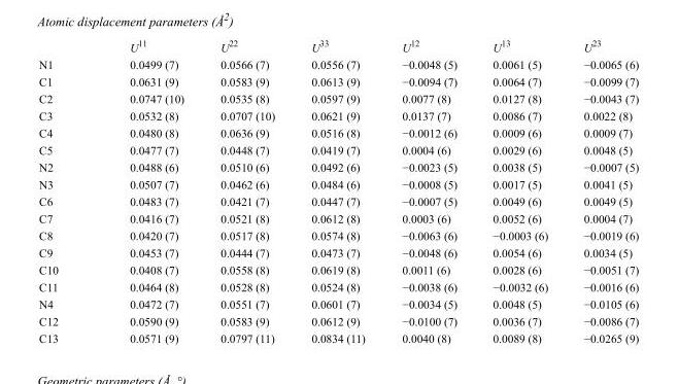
<table><thead><tr><td></td><td>U<sup>11</sup></td><td>U<sup>22</sup></td><td>U<sup>33</sup></td><td>U<sup>12</sup></td><td>U<sup>13</sup></td><td>U<sup>23</sup></td></tr></thead><tbody><tr><td>N1</td><td>0.0499 (7)</td><td>0.0566 (7)</td><td>0.0556 (7)</td><td>−0.0048 (5)</td><td>0.0061 (5)</td><td>−0.0065 (6)</td></tr><tr><td>C1</td><td>0.0631 (9)</td><td>0.0583 (9)</td><td>0.0613 (9)</td><td>−0.0094 (7)</td><td>0.0064 (7)</td><td>−0.0099 (7)</td></tr><tr><td>C2</td><td>0.0747 (10)</td><td>0.0535 (8)</td><td>0.0597 (9)</td><td>0.0077 (8)</td><td>0.0127 (8)</td><td>−0.0043 (7)</td></tr><tr><td>C3</td><td>0.0532 (8)</td><td>0.0707 (10)</td><td>0.0621 (9)</td><td>0.0137 (7)</td><td>0.0086 (7)</td><td>0.0022 (8)</td></tr><tr><td>C4</td><td>0.0480 (8)</td><td>0.0636 (9)</td><td>0.0516 (8)</td><td>−0.0012 (6)</td><td>0.0009 (6)</td><td>0.0009 (7)</td></tr><tr><td>C5</td><td>0.0477 (7)</td><td>0.0448 (7)</td><td>0.0419 (7)</td><td>0.0004 (6)</td><td>0.0029 (6)</td><td>0.0048 (5)</td></tr><tr><td>N2</td><td>0.0488 (6)</td><td>0.0510 (6)</td><td>0.0492 (6)</td><td>−0.0023 (5)</td><td>0.0038 (5)</td><td>−0.0007 (5)</td></tr><tr><td>N3</td><td>0.0507 (7)</td><td>0.0462 (6)</td><td>0.0484 (6)</td><td>−0.0008 (5)</td><td>0.0017 (5)</td><td>0.0041 (5)</td></tr><tr><td>C6</td><td>0.0483 (7)</td><td>0.0421 (7)</td><td>0.0447 (7)</td><td>−0.0007 (5)</td><td>0.0049 (6)</td><td>0.0049 (5)</td></tr><tr><td>C7</td><td>0.0416 (7)</td><td>0.0521 (8)</td><td>0.0612 (8)</td><td>0.0003 (6)</td><td>0.0052 (6)</td><td>0.0004 (7)</td></tr><tr><td>C8</td><td>0.0420 (7)</td><td>0.0517 (8)</td><td>0.0574 (8)</td><td>−0.0063 (6)</td><td>−0.0003 (6)</td><td>−0.0019 (6)</td></tr><tr><td>C9</td><td>0.0453 (7)</td><td>0.0444 (7)</td><td>0.0473 (7)</td><td>−0.0048 (6)</td><td>0.0054 (6)</td><td>0.0034 (5)</td></tr><tr><td>C10</td><td>0.0408 (7)</td><td>0.0558 (8)</td><td>0.0619 (8)</td><td>0.0011 (6)</td><td>0.0028 (6)</td><td>−0.0051 (7)</td></tr><tr><td>C11</td><td>0.0464 (8)</td><td>0.0528 (8)</td><td>0.0524 (8)</td><td>−0.0038 (6)</td><td>−0.0032 (6)</td><td>−0.0016 (6)</td></tr><tr><td>N4</td><td>0.0472 (7)</td><td>0.0551 (7)</td><td>0.0601 (7)</td><td>−0.0034 (5)</td><td>0.0048 (5)</td><td>−0.0105 (6)</td></tr><tr><td>C12</td><td>0.0590 (9)</td><td>0.0583 (9)</td><td>0.0612 (9)</td><td>−0.0100 (7)</td><td>0.0036 (7)</td><td>−0.0086 (7)</td></tr><tr><td>C13</td><td>0.0571 (9)</td><td>0.0797 (11)</td><td>0.0834 (11)</td><td>0.0040 (8)</td><td>0.0089 (8)</td><td>−0.0265 (9)</td></tr></tbody></table>